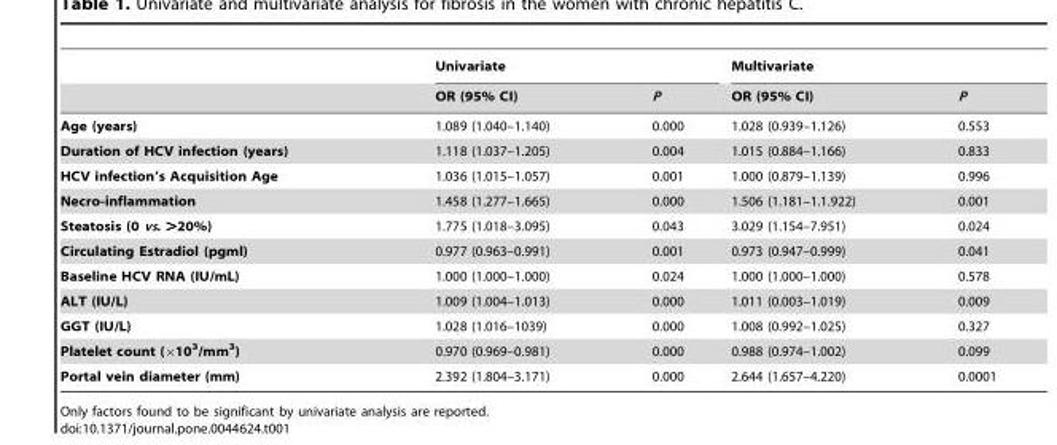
<table><thead><tr><td rowspan="2"></td><td colspan="2">Univariate</td><td colspan="2">Multivariate</td></tr><tr><td>OR (95% CI)</td><td>P</td><td>OR (95% CI)</td><td>P</td></tr></thead><tbody><tr><td>Age (years)</td><td>1.089 (1.040–1.140)</td><td>0.000</td><td>1.028 (0.939–1.126)</td><td>0.553</td></tr><tr><td>Duration of HCV infection (years)</td><td>1.118 (1.037–1.205)</td><td>0.004</td><td>1.015 (0.884–1.166)</td><td>0.833</td></tr><tr><td>HCV infection’s Acquisition Age</td><td>1.036 (1.015–1.057)</td><td>0.001</td><td>1.000 (0.879–1.139)</td><td>0.996</td></tr><tr><td>Necro-inflammation</td><td>1.458 (1.277–1.665)</td><td>0.000</td><td>1.506 (1.181–1.1.922)</td><td>0.001</td></tr><tr><td>Steatosis (0 vs. &gt;20%)</td><td>1.775 (1.018–3.095)</td><td>0.043</td><td>3.029 (1.154–7.951)</td><td>0.024</td></tr><tr><td>Circulating Estradiol (pgml)</td><td>0.977 (0.963–0.991)</td><td>0.001</td><td>0.973 (0.947–0.999)</td><td>0.041</td></tr><tr><td>Baseline HCV RNA (IU/mL)</td><td>1.000 (1.000–1.000)</td><td>0.024</td><td>1.000 (1.000–1.000)</td><td>0.578</td></tr><tr><td>ALT (IU/L)</td><td>1.009 (1.004–1.013)</td><td>0.000</td><td>1.011 (0.003–1.019)</td><td>0.009</td></tr><tr><td>GGT (IU/L)</td><td>1.028 (1.016–1039)</td><td>0.000</td><td>1.008 (0.992–1.025)</td><td>0.327</td></tr><tr><td>Platelet count (×10<sup>3</sup>/mm<sup>3</sup>)</td><td>0.970 (0.969–0.981)</td><td>0.000</td><td>0.988 (0.974–1.002)</td><td>0.099</td></tr><tr><td>Portal vein diameter (mm)</td><td>2.392 (1.804–3.171)</td><td>0.000</td><td>2.644 (1.657–4.220)</td><td>0.0001</td></tr></tbody></table>